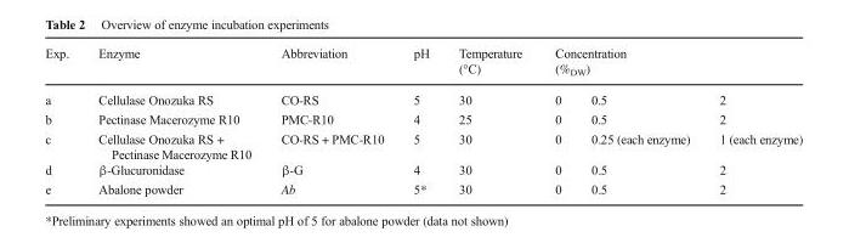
<table><thead><tr><td rowspan="2">Exp. a</td><td rowspan="2">Enzyme Cellulase Onozuka RS</td><td rowspan="2">Abbreviation CO-RS</td><td rowspan="2">pH 5</td><td rowspan="2">Temperature (°C) 30</td><td colspan="3">Concentration (%<sub>DW</sub>)</td></tr><tr><td>0</td><td>0.5</td><td>2</td></tr></thead><tbody><tr><td>b</td><td>Pectinase Macerozyme R10</td><td>PMC-R10</td><td>4</td><td>25</td><td>0</td><td>0.5</td><td>2</td></tr><tr><td>c</td><td>Cellulase Onozuka RS + Pectinase Macerozyme R10</td><td>CO-RS + PMC-R10</td><td>5</td><td>30</td><td>0</td><td>0.25 (each enzyme)</td><td>1 (each enzyme)</td></tr><tr><td>d</td><td>β-Glucuronidase</td><td>β-G</td><td>4</td><td>30</td><td>0</td><td>0.5</td><td>2</td></tr><tr><td>e</td><td>Abalone powder</td><td>Ab</td><td>5*</td><td>30</td><td>0</td><td>0.5</td><td>2</td></tr></tbody></table>